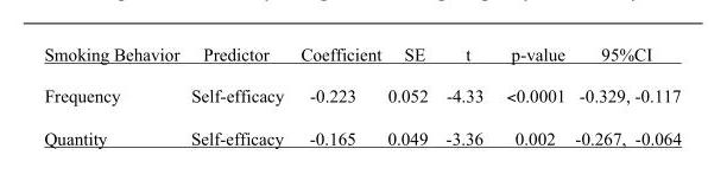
<table><thead><tr><td>Smoking Behavior</td><td>Predictor</td><td>Coefficient</td><td>SE</td><td>t</td><td>p-value</td><td>95%CI</td></tr></thead><tbody><tr><td>Frequency</td><td>Self-efficacy</td><td>-0.223</td><td>0.052</td><td>-4.33</td><td>&lt;0.0001</td><td>-0.329, -0.117</td></tr><tr><td>Quantity</td><td>Self-efficacy</td><td>-0.165</td><td>0.049</td><td>-3.36</td><td>0.002</td><td>-0.267, -0.064</td></tr></tbody></table>